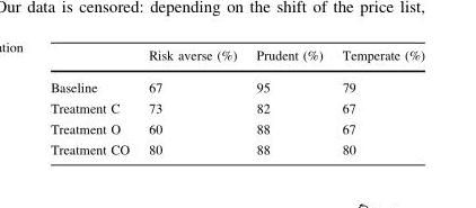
<table><thead><tr><td></td><td>Risk averse (%)</td><td>Prudent (%)</td><td>Temperate (%)</td></tr></thead><tbody><tr><td>Baseline</td><td>67</td><td>95</td><td>79</td></tr><tr><td>Treatment C</td><td>73</td><td>82</td><td>67</td></tr><tr><td>Treatment O</td><td>60</td><td>88</td><td>67</td></tr><tr><td>Treatment CO</td><td>80</td><td>88</td><td>80</td></tr></tbody></table>